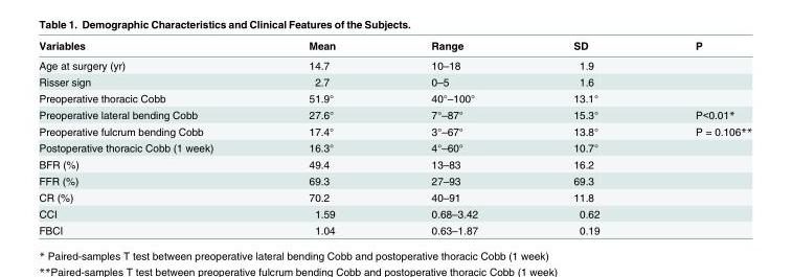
<table><thead><tr><td>Variables</td><td>Mean</td><td>Range</td><td>SD</td><td>P</td></tr></thead><tbody><tr><td>Age at surgery (yr)</td><td>14.7</td><td>10–18</td><td>1.9</td><td></td></tr><tr><td>Risser sign</td><td>2.7</td><td>0–5</td><td>1.6</td><td></td></tr><tr><td>Preoperative thoracic Cobb</td><td>51.9°</td><td>40°–100°</td><td>13.1°</td><td></td></tr><tr><td>Preoperative lateral bending Cobb</td><td>27.6°</td><td>7°–87°</td><td>15.3°</td><td>P&lt;0.01*</td></tr><tr><td>Preoperative fulcrum bending Cobb</td><td>17.4°</td><td>3°–67°</td><td>13.8°</td><td>P = 0.106**</td></tr><tr><td>Postoperative thoracic Cobb (1 week)</td><td>16.3°</td><td>4°–60°</td><td>10.7°</td><td></td></tr><tr><td>BFR (%)</td><td>49.4</td><td>13–83</td><td>16.2</td><td></td></tr><tr><td>FFR (%)</td><td>69.3</td><td>27–93</td><td>69.3</td><td></td></tr><tr><td>CR (%)</td><td>70.2</td><td>40–91</td><td>11.8</td><td></td></tr><tr><td>CCI</td><td>1.59</td><td>0.68–3.42</td><td>0.62</td><td></td></tr><tr><td>FBCI</td><td>1.04</td><td>0.63–1.87</td><td>0.19</td><td></td></tr></tbody></table>